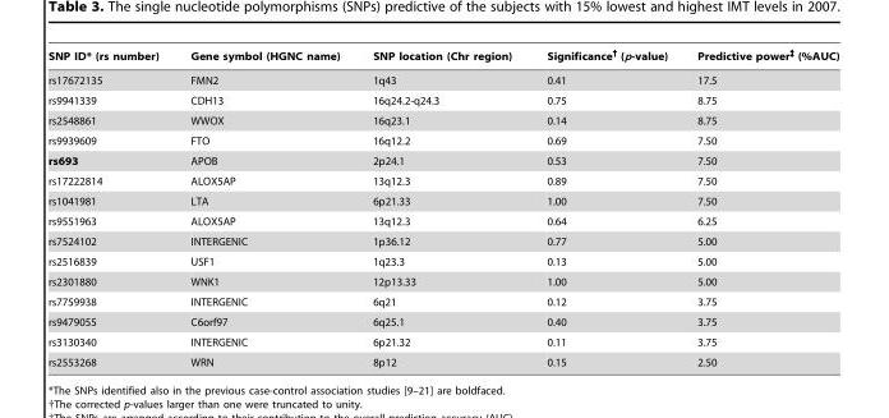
<table><thead><tr><td>SNP ID* (rs number)</td><td>Gene symbol (HGNC name)</td><td>SNP location (Chr region)</td><td>Significance† (p-value)</td><td>Predictive power‡ (%AUC)</td></tr></thead><tbody><tr><td>rs17672135</td><td>FMN2</td><td>1q43</td><td>0.41</td><td>17.5</td></tr><tr><td>rs9941339</td><td>CDH13</td><td>16q24.2-q24.3</td><td>0.75</td><td>8.75</td></tr><tr><td>rs2548861</td><td>WWOX</td><td>16q23.1</td><td>0.14</td><td>8.75</td></tr><tr><td>rs9939609</td><td>FTO</td><td>16q12.2</td><td>0.69</td><td>7.50</td></tr><tr><td>rs693</td><td>APOB</td><td>2p24.1</td><td>0.53</td><td>7.50</td></tr><tr><td>rs17222814</td><td>ALOX5AP</td><td>13q12.3</td><td>0.89</td><td>7.50</td></tr><tr><td>rs1041981</td><td>LTA</td><td>6p21.33</td><td>1.00</td><td>7.50</td></tr><tr><td>rs9551963</td><td>ALOX5AP</td><td>13q12.3</td><td>0.64</td><td>6.25</td></tr><tr><td>rs7524102</td><td>INTERGENIC</td><td>1p36.12</td><td>0.77</td><td>5.00</td></tr><tr><td>rs2516839</td><td>USF1</td><td>1q23.3</td><td>0.13</td><td>5.00</td></tr><tr><td>rs2301880</td><td>WNK1</td><td>12p13.33</td><td>1.00</td><td>5.00</td></tr><tr><td>rs7759938</td><td>INTERGENIC</td><td>6q21</td><td>0.12</td><td>3.75</td></tr><tr><td>rs9479055</td><td>C6orf97</td><td>6q25.1</td><td>0.40</td><td>3.75</td></tr><tr><td>rs3130340</td><td>INTERGENIC</td><td>6p21.32</td><td>0.11</td><td>3.75</td></tr><tr><td>rs2553268</td><td>WRN</td><td>8p12</td><td>0.15</td><td>2.50</td></tr></tbody></table>